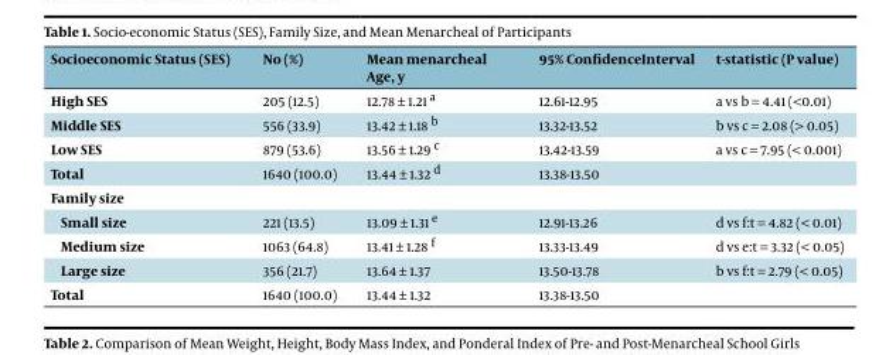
<table><thead><tr><td>Socioeconomic Status (SES)</td><td>No (%)</td><td>Mean menarcheal Age, y</td><td>95% ConfidenceInterval</td><td>t-statistic (P value)</td></tr></thead><tbody><tr><td>High SES</td><td>205 (12.5)</td><td>12.78 ± 1.21 <sup>a</sup></td><td>12.61-12.95</td><td>a vs b = 4.41 (&lt;0.01)</td></tr><tr><td>Middle SES</td><td>556 (33.9)</td><td>13.42 ± 1.18 <sup>b</sup></td><td>13.32-13.52</td><td>b vs c = 2.08 (&gt; 0.05)</td></tr><tr><td>Low SES</td><td>879 (53.6)</td><td>13.56 ± 1.29 <sup>c</sup></td><td>13.42-13.59</td><td>a vs c = 7.95 (&lt; 0.001)</td></tr><tr><td>Total</td><td>1640 (100.0)</td><td>13.44 ± 1.32 <sup>d</sup></td><td>13.38-13.50</td><td></td></tr><tr><td colspan="5">Family size</td></tr><tr><td>Small size</td><td>221 (13.5)</td><td>13.09 ± 1.31 <sup>e</sup></td><td>12.91-13.26</td><td>d vs f:t = 4.82 (&lt; 0.01)</td></tr><tr><td>Medium size</td><td>1063 (64.8)</td><td>13.41 ± 1.28 <sup>f</sup></td><td>13.33-13.49</td><td>d vs e:t = 3.32 (&lt; 0.05)</td></tr><tr><td>Large size</td><td>356 (21.7)</td><td>13.64 ± 1.37</td><td>13.50-13.78</td><td>b vs f:t = 2.79 (&lt; 0.05)</td></tr><tr><td>Total</td><td>1640 (100.0)</td><td>13.44 ± 1.32</td><td>13.38-13.50</td><td></td></tr></tbody></table>